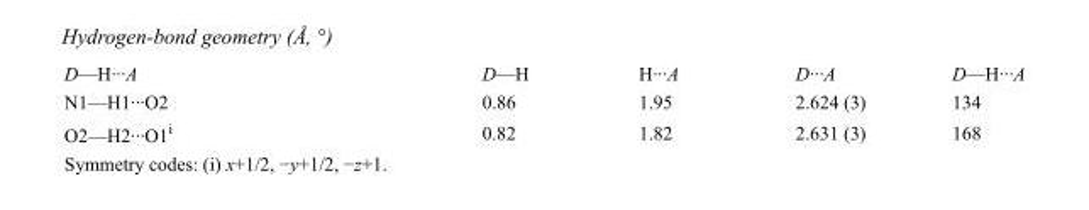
<table><tbody><tr><td>D—H···A</td><td>D—H</td><td>H···A</td><td>D···A</td><td>D—H···A</td></tr><tr><td>N1—H1···O2</td><td>0.86</td><td>1.95</td><td>2.624 (3)</td><td>134</td></tr><tr><td>O2—H2···O1<sup>i</sup></td><td>0.82</td><td>1.82</td><td>2.631 (3)</td><td>168</td></tr></tbody></table>